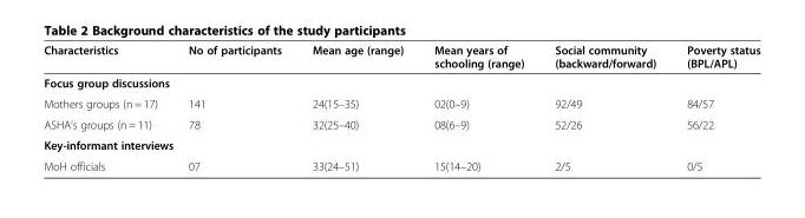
<table><thead><tr><td>Characteristics</td><td>No of participants</td><td>Mean age (range)</td><td>Mean years of schooling (range)</td><td>Social community (backward/forward)</td><td>Poverty status (BPL/APL)</td></tr></thead><tbody><tr><td colspan="6">Focus group discussions</td></tr><tr><td>Mothers groups (n = 17)</td><td>141</td><td>24(15–35)</td><td>02(0–9)</td><td>92/49</td><td>84/57</td></tr><tr><td>ASHA’s groups (n = 11)</td><td>78</td><td>32(25–40)</td><td>08(6–9)</td><td>52/26</td><td>56/22</td></tr><tr><td colspan="6">Key-informant interviews</td></tr><tr><td>MoH officials</td><td>07</td><td>33(24–51)</td><td>15(14–20)</td><td>2/5</td><td>0/5</td></tr></tbody></table>